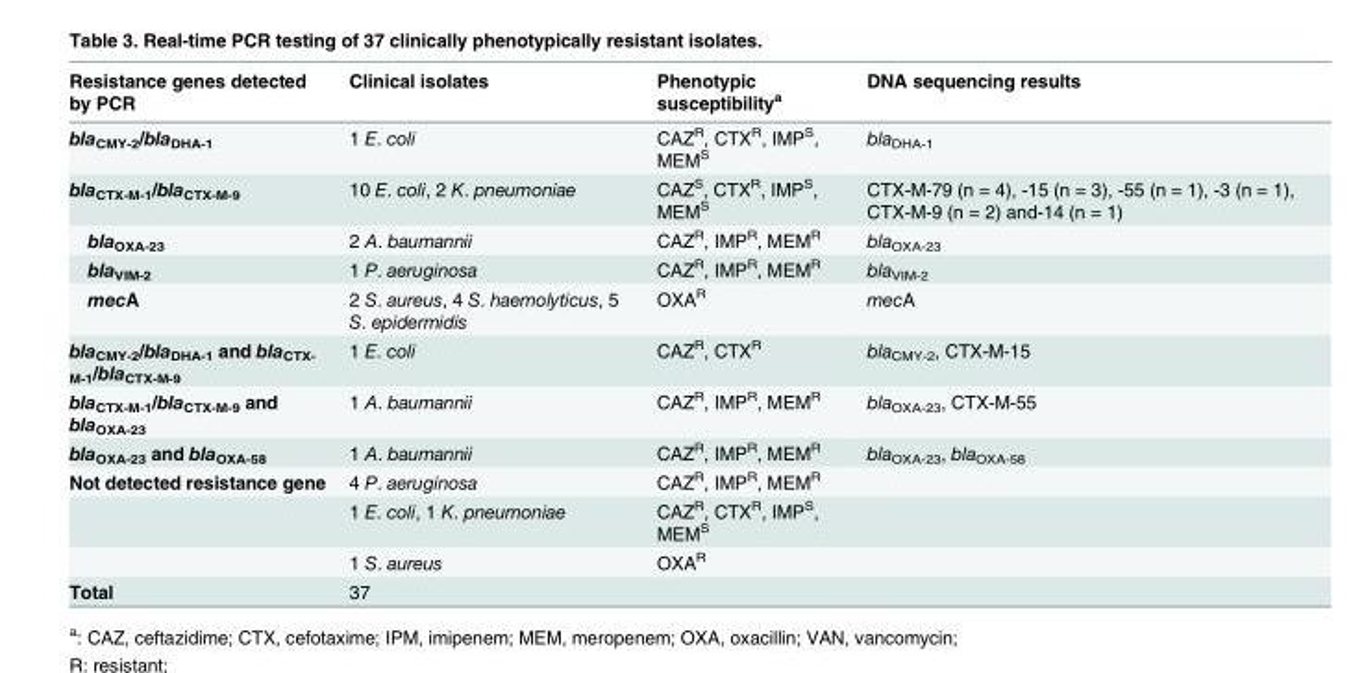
<table><thead><tr><td>Resistance genes detected by PCR</td><td>Clinical isolates</td><td>Phenotypic susceptibility<sup>a</sup></td><td>DNA sequencing results</td></tr></thead><tbody><tr><td>bla<sub>CMY-2</sub>/bla<sub>DHA-1</sub></td><td>1 E. coli</td><td>CAZ<sup>R</sup>, CTX<sup>R</sup>, IMP<sup>S</sup>, MEM<sup>S</sup></td><td>bla<sub>DHA-1</sub></td></tr><tr><td>bla<sub>CTX-M-1</sub>/bla<sub>CTX-M-9</sub></td><td>10 E. coli, 2 K. pneumoniae</td><td>CAZ<sup>S</sup>, CTX<sup>R</sup>, IMP<sup>S</sup>, MEM<sup>S</sup></td><td>CTX-M-79 (n = 4), -15 (n = 3), -55 (n = 1), -3 (n = 1), CTX-M-9 (n = 2) and-14 (n = 1)</td></tr><tr><td>bla<sub>OXA-23</sub></td><td>2 A. baumannii</td><td>CAZ<sup>R</sup>, IMP<sup>R</sup>, MEM<sup>R</sup></td><td>bla<sub>OXA-23</sub></td></tr><tr><td>bla<sub>VIM-2</sub></td><td>1 P. aeruginosa</td><td>CAZ<sup>R</sup>, IMP<sup>R</sup>, MEM<sup>R</sup></td><td>bla<sub>VIM-2</sub></td></tr><tr><td>mecA</td><td>2 S. aureus, 4 S. haemolyticus, 5 S. epidermidis</td><td>OXA<sup>R</sup></td><td>mecA</td></tr><tr><td>bla<sub>CMY-2</sub>/bla<sub>DHA-1</sub> and bla<sub>CTX- M-1</sub>/bla<sub>CTX-M-9</sub></td><td>1 E. coli</td><td>CAZ<sup>R</sup>, CTX<sup>R</sup></td><td>bla<sub>CMY-2</sub>, CTX-M-15</td></tr><tr><td>bla<sub>CTX-M-1</sub>/bla<sub>CTX-M-9</sub> and bla<sub>OXA-23</sub></td><td>1 A. baumannii</td><td>CAZ<sup>R</sup>, IMP<sup>R</sup>, MEM<sup>R</sup></td><td>bla<sub>OXA-23</sub>, CTX-M-55</td></tr><tr><td>bla<sub>OXA-23</sub> and bla<sub>OXA-58</sub></td><td>1 A. baumannii</td><td>CAZ<sup>R</sup>, IMP<sup>R</sup>, MEM<sup>R</sup></td><td>bla<sub>OXA-23</sub>, bla<sub>OXA-58</sub></td></tr><tr><td rowspan="3">Not detected resistance gene</td><td>4 P. aeruginosa</td><td>CAZ<sup>R</sup>, IMP<sup>R</sup>, MEM<sup>R</sup></td><td></td></tr><tr><td>1 E. coli, 1 K. pneumoniae</td><td>CAZ<sup>R</sup>, CTX<sup>R</sup>, IMP<sup>S</sup>, MEM<sup>S</sup></td><td></td></tr><tr><td>1 S. aureus</td><td>OXA<sup>R</sup></td><td></td></tr><tr><td>Total</td><td>37</td><td></td><td></td></tr></tbody></table>